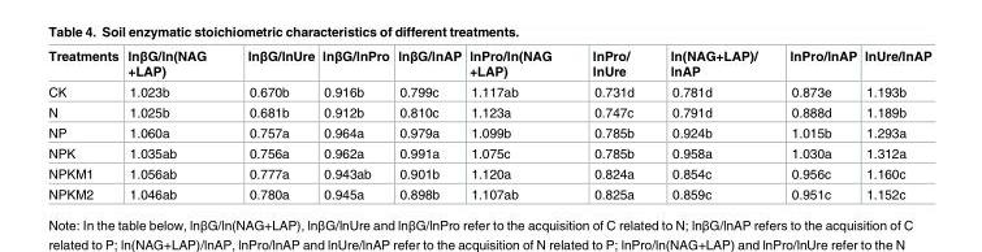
<table><thead><tr><td>Treatments</td><td>lnβG/ln(NAG +LAP)</td><td>lnβG/lnUre</td><td>lnβG/lnPro</td><td>lnβG/lnAP</td><td>lnPro/ln(NAG +LAP)</td><td>lnPro/ lnUre</td><td>ln(NAG+LAP)/ lnAP</td><td>lnPro/lnAP</td><td>lnUre/lnAP</td></tr></thead><tbody><tr><td>CK</td><td>1.023b</td><td>0.670b</td><td>0.916b</td><td>0.799c</td><td>1.117ab</td><td>0.731d</td><td>0.781d</td><td>0.873e</td><td>1.193b</td></tr><tr><td>N</td><td>1.025b</td><td>0.681b</td><td>0.912b</td><td>0.810c</td><td>1.123a</td><td>0.747c</td><td>0.791d</td><td>0.888d</td><td>1.189b</td></tr><tr><td>NP</td><td>1.060a</td><td>0.757a</td><td>0.964a</td><td>0.979a</td><td>1.099b</td><td>0.785b</td><td>0.924b</td><td>1.015b</td><td>1.293a</td></tr><tr><td>NPK</td><td>1.035ab</td><td>0.756a</td><td>0.962a</td><td>0.991a</td><td>1.075c</td><td>0.785b</td><td>0.958a</td><td>1.030a</td><td>1.312a</td></tr><tr><td>NPKM1</td><td>1.056ab</td><td>0.777a</td><td>0.943ab</td><td>0.901b</td><td>1.120a</td><td>0.824a</td><td>0.854c</td><td>0.956c</td><td>1.160c</td></tr><tr><td>NPKM2</td><td>1.046ab</td><td>0.780a</td><td>0.945a</td><td>0.898b</td><td>1.107ab</td><td>0.825a</td><td>0.859c</td><td>0.951c</td><td>1.152c</td></tr></tbody></table>